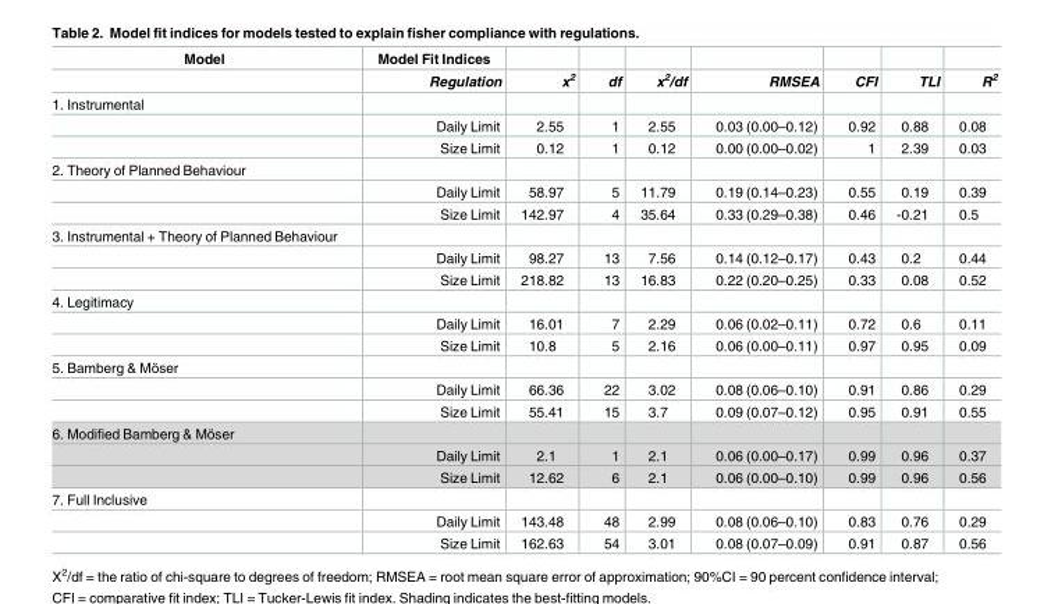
<table><thead><tr><td rowspan="2">Model</td><td rowspan="2">Model Fit Indices Regulation</td><td rowspan="2">x<sup>2</sup></td><td rowspan="2">df</td><td rowspan="2">x<sup>2</sup>/df</td><td rowspan="2">RMSEA</td><td rowspan="2">CFI</td><td rowspan="2">TLI</td><td rowspan="2">R<sup>2</sup></td></tr><tr></tr></thead><tbody><tr><td colspan="9">1. Instrumental</td></tr><tr><td></td><td>Daily Limit</td><td>2.55</td><td>1</td><td>2.55</td><td>0.03 (0.00–0.12)</td><td>0.92</td><td>0.88</td><td>0.08</td></tr><tr><td></td><td>Size Limit</td><td>0.12</td><td>1</td><td>0.12</td><td>0.00 (0.00–0.02)</td><td>1</td><td>2.39</td><td>0.03</td></tr><tr><td colspan="9">2. Theory of Planned Behaviour</td></tr><tr><td></td><td>Daily Limit</td><td>58.97</td><td>5</td><td>11.79</td><td>0.19 (0.14–0.23)</td><td>0.55</td><td>0.19</td><td>0.39</td></tr><tr><td></td><td>Size Limit</td><td>142.97</td><td>4</td><td>35.64</td><td>0.33 (0.29–0.38)</td><td>0.46</td><td>-0.21</td><td>0.5</td></tr><tr><td colspan="9">3. Instrumental + Theory of Planned Behaviour</td></tr><tr><td></td><td>Daily Limit</td><td>98.27</td><td>13</td><td>7.56</td><td>0.14 (0.12–0.17)</td><td>0.43</td><td>0.2</td><td>0.44</td></tr><tr><td></td><td>Size Limit</td><td>218.82</td><td>13</td><td>16.83</td><td>0.22 (0.20–0.25)</td><td>0.33</td><td>0.08</td><td>0.52</td></tr><tr><td colspan="9">4. Legitimacy</td></tr><tr><td></td><td>Daily Limit</td><td>16.01</td><td>7</td><td>2.29</td><td>0.06 (0.02–0.11)</td><td>0.72</td><td>0.6</td><td>0.11</td></tr><tr><td></td><td>Size Limit</td><td>10.8</td><td>5</td><td>2.16</td><td>0.06 (0.00–0.11)</td><td>0.97</td><td>0.95</td><td>0.09</td></tr><tr><td colspan="9">5. Bamberg &amp; Mo¨ser</td></tr><tr><td></td><td>Daily Limit</td><td>66.36</td><td>22</td><td>3.02</td><td>0.08 (0.06–0.10)</td><td>0.91</td><td>0.86</td><td>0.29</td></tr><tr><td></td><td>Size Limit</td><td>55.41</td><td>15</td><td>3.7</td><td>0.09 (0.07–0.12)</td><td>0.95</td><td>0.91</td><td>0.55</td></tr><tr><td colspan="9">6. Modified Bamberg &amp; Mo¨ser</td></tr><tr><td></td><td>Daily Limit</td><td>2.1</td><td>1</td><td>2.1</td><td>0.06 (0.00–0.17)</td><td>0.99</td><td>0.96</td><td>0.37</td></tr><tr><td></td><td>Size Limit</td><td>12.62</td><td>6</td><td>2.1</td><td>0.06 (0.00–0.10)</td><td>0.99</td><td>0.96</td><td>0.56</td></tr><tr><td colspan="9">7. Full Inclusive</td></tr><tr><td></td><td>Daily Limit</td><td>143.48</td><td>48</td><td>2.99</td><td>0.08 (0.06–0.10)</td><td>0.83</td><td>0.76</td><td>0.29</td></tr><tr><td></td><td>Size Limit</td><td>162.63</td><td>54</td><td>3.01</td><td>0.08 (0.07–0.09)</td><td>0.91</td><td>0.87</td><td>0.56</td></tr></tbody></table>